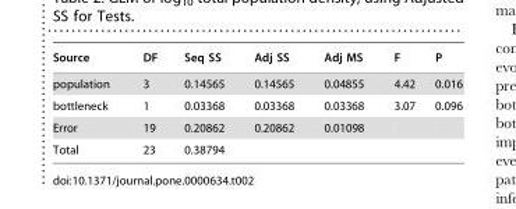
<table><thead><tr><td>Source</td><td>DF</td><td>Seq SS</td><td>Adj SS</td><td>Adj MS</td><td>F</td><td>P</td></tr></thead><tbody><tr><td>population</td><td>3</td><td>0.14565</td><td>0.14565</td><td>0.04855</td><td>4.42</td><td>0.016</td></tr><tr><td>bottleneck</td><td>1</td><td>0.03368</td><td>0.03368</td><td>0.03368</td><td>3.07</td><td>0.096</td></tr><tr><td>Error</td><td>19</td><td>0.20862</td><td>0.20862</td><td>0.01098</td><td></td><td></td></tr><tr><td>Total</td><td>23</td><td>0.38794</td><td></td><td></td><td></td><td></td></tr></tbody></table>